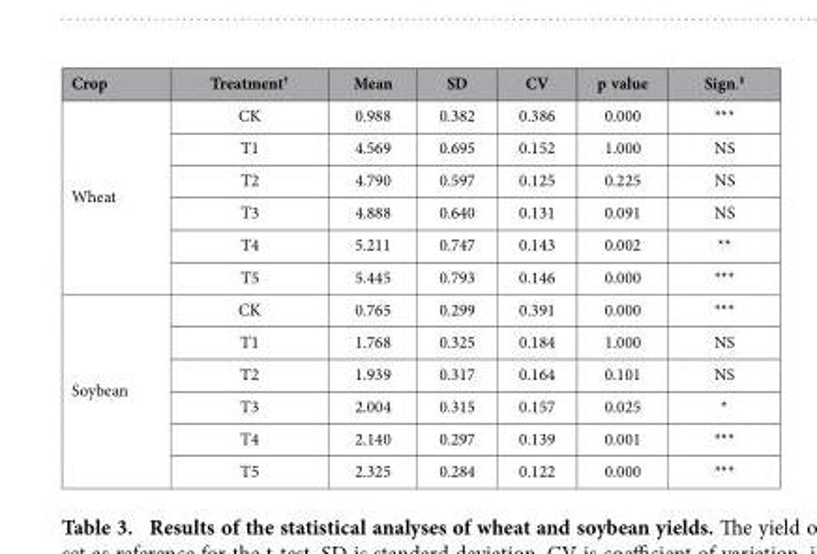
<table><thead><tr><td>Crop</td><td>Treatment†</td><td>Mean</td><td>SD</td><td>CV</td><td>p value</td><td>Sign.‡</td></tr></thead><tbody><tr><td rowspan="6">Wheat</td><td>CK</td><td>0.988</td><td>0.382</td><td>0.386</td><td>0.000</td><td>***</td></tr><tr><td>T1</td><td>4.569</td><td>0.695</td><td>0.152</td><td>1.000</td><td>NS</td></tr><tr><td>T2</td><td>4.790</td><td>0.597</td><td>0.125</td><td>0.225</td><td>NS</td></tr><tr><td>T3</td><td>4.888</td><td>0.640</td><td>0.131</td><td>0.091</td><td>NS</td></tr><tr><td>T4</td><td>5.211</td><td>0.747</td><td>0.143</td><td>0.002</td><td>**</td></tr><tr><td>T5</td><td>5.445</td><td>0.793</td><td>0.146</td><td>0.000</td><td>***</td></tr><tr><td rowspan="6">Soybean</td><td>CK</td><td>0.765</td><td>0.299</td><td>0.391</td><td>0.000</td><td>***</td></tr><tr><td>T1</td><td>1.768</td><td>0.325</td><td>0.184</td><td>1.000</td><td>NS</td></tr><tr><td>T2</td><td>1.939</td><td>0.317</td><td>0.164</td><td>0.101</td><td>NS</td></tr><tr><td>T3</td><td>2.004</td><td>0.315</td><td>0.157</td><td>0.025</td><td>*</td></tr><tr><td>T4</td><td>2.140</td><td>0.297</td><td>0.139</td><td>0.001</td><td>***</td></tr><tr><td>T5</td><td>2.325</td><td>0.284</td><td>0.122</td><td>0.000</td><td>***</td></tr></tbody></table>